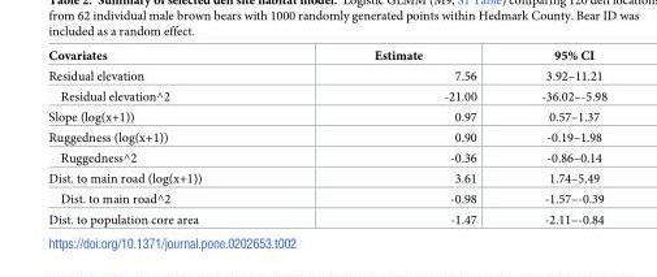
<table><thead><tr><td>Covariates</td><td>Estimate</td><td>95% CI</td></tr></thead><tbody><tr><td>Residual elevation</td><td>7.56</td><td>3.92–11.21</td></tr><tr><td>Residual elevation^2</td><td>-21.00</td><td>-36.02–-5.98</td></tr><tr><td>Slope (log(x+1))</td><td>0.97</td><td>0.57–1.37</td></tr><tr><td>Ruggedness (log(x+1))</td><td>0.90</td><td>-0.19–1.98</td></tr><tr><td>Ruggedness^2</td><td>-0.36</td><td>-0.86–0.14</td></tr><tr><td>Dist. to main road (log(x+1))</td><td>3.61</td><td>1.74–5.49</td></tr><tr><td>Dist. to main road^2</td><td>-0.98</td><td>-1.57–-0.39</td></tr><tr><td>Dist. to population core area</td><td>-1.47</td><td>-2.11–-0.84</td></tr></tbody></table>